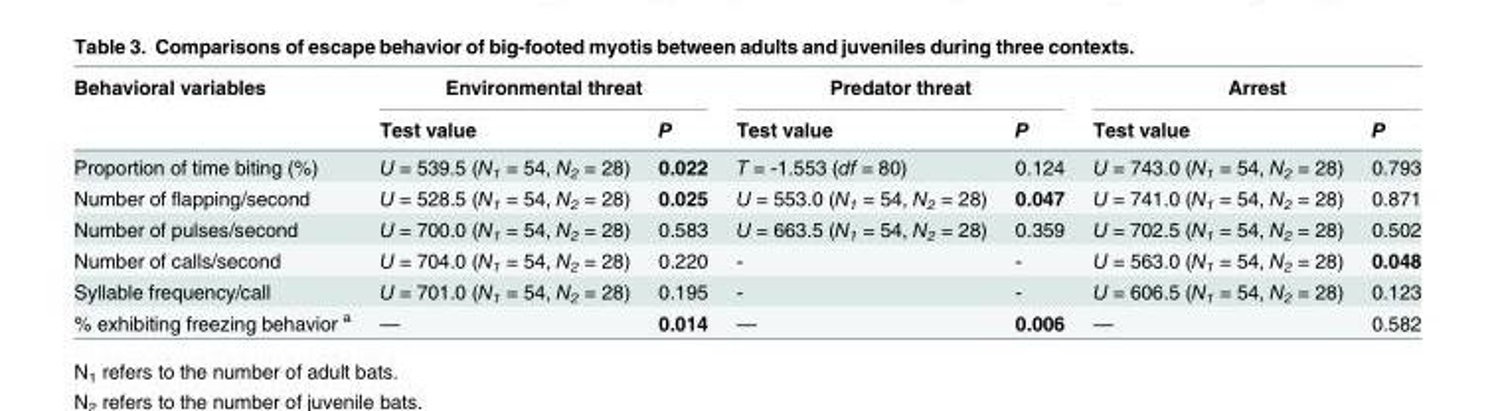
<table><thead><tr><td rowspan="2">Behavioral variables</td><td colspan="2">Environmental threat</td><td colspan="2">Predator threat</td><td colspan="2">Arrest</td></tr><tr><td>Test value</td><td>P</td><td>Test value</td><td>P</td><td>Test value</td><td>P</td></tr></thead><tbody><tr><td>Proportion of time biting (%)</td><td>U = 539.5 (N<sub>1</sub> = 54, N<sub>2</sub> = 28)</td><td>0.022</td><td>T = -1.553 (df = 80)</td><td>0.124</td><td>U = 743.0 (N<sub>1</sub> = 54, N<sub>2</sub> = 28)</td><td>0.793</td></tr><tr><td>Number of flapping/second</td><td>U = 528.5 (N<sub>1</sub> = 54, N<sub>2</sub> = 28)</td><td>0.025</td><td>U = 553.0 (N<sub>1</sub> = 54, N<sub>2</sub> = 28)</td><td>0.047</td><td>U = 741.0 (N<sub>1</sub> = 54, N<sub>2</sub> = 28)</td><td>0.871</td></tr><tr><td>Number of pulses/second</td><td>U = 700.0 (N<sub>1</sub> = 54, N<sub>2</sub> = 28)</td><td>0.583</td><td>U = 663.5 (N<sub>1</sub> = 54, N<sub>2</sub> = 28)</td><td>0.359</td><td>U = 702.5 (N<sub>1</sub> = 54, N<sub>2</sub> = 28)</td><td>0.502</td></tr><tr><td>Number of calls/second</td><td>U = 704.0 (N<sub>1</sub> = 54, N<sub>2</sub> = 28)</td><td>0.220</td><td>-</td><td>-</td><td>U = 563.0 (N<sub>1</sub> = 54, N<sub>2</sub> = 28)</td><td>0.048</td></tr><tr><td>Syllable frequency/call</td><td>U = 701.0 (N<sub>1</sub> = 54, N<sub>2</sub> = 28)</td><td>0.195</td><td>-</td><td>-</td><td>U = 606.5 (N<sub>1</sub> = 54, N<sub>2</sub> = 28)</td><td>0.123</td></tr><tr><td>% exhibiting freezing behavior <sup>a</sup></td><td>—</td><td>0.014</td><td>—</td><td>0.006</td><td>—</td><td>0.582</td></tr></tbody></table>